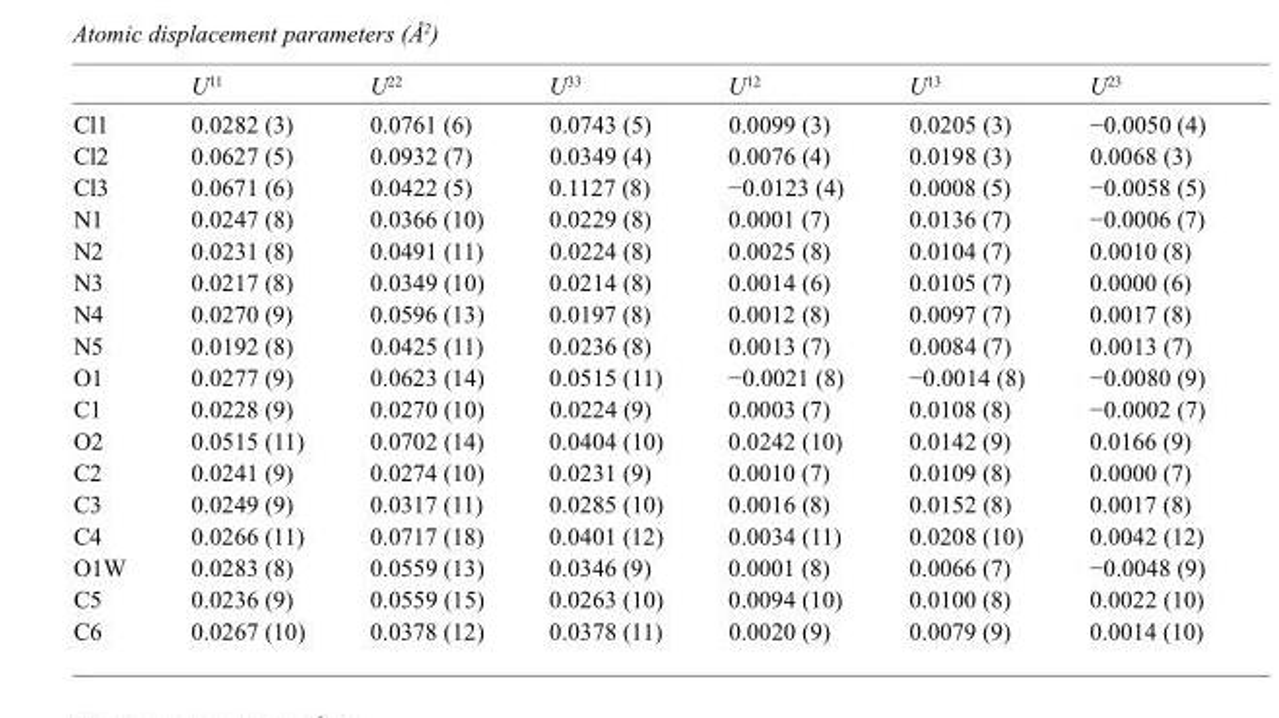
<table><thead><tr><td></td><td>U<sup>11</sup></td><td>U<sup>22</sup></td><td>U<sup>33</sup></td><td>U<sup>12</sup></td><td>U<sup>13</sup></td><td>U<sup>23</sup></td></tr></thead><tbody><tr><td>Cl1</td><td>0.0282 (3)</td><td>0.0761 (6)</td><td>0.0743 (5)</td><td>0.0099 (3)</td><td>0.0205 (3)</td><td>−0.0050 (4)</td></tr><tr><td>Cl2</td><td>0.0627 (5)</td><td>0.0932 (7)</td><td>0.0349 (4)</td><td>0.0076 (4)</td><td>0.0198 (3)</td><td>0.0068 (3)</td></tr><tr><td>Cl3</td><td>0.0671 (6)</td><td>0.0422 (5)</td><td>0.1127 (8)</td><td>−0.0123 (4)</td><td>0.0008 (5)</td><td>−0.0058 (5)</td></tr><tr><td>N1</td><td>0.0247 (8)</td><td>0.0366 (10)</td><td>0.0229 (8)</td><td>0.0001 (7)</td><td>0.0136 (7)</td><td>−0.0006 (7)</td></tr><tr><td>N2</td><td>0.0231 (8)</td><td>0.0491 (11)</td><td>0.0224 (8)</td><td>0.0025 (8)</td><td>0.0104 (7)</td><td>0.0010 (8)</td></tr><tr><td>N3</td><td>0.0217 (8)</td><td>0.0349 (10)</td><td>0.0214 (8)</td><td>0.0014 (6)</td><td>0.0105 (7)</td><td>0.0000 (6)</td></tr><tr><td>N4</td><td>0.0270 (9)</td><td>0.0596 (13)</td><td>0.0197 (8)</td><td>0.0012 (8)</td><td>0.0097 (7)</td><td>0.0017 (8)</td></tr><tr><td>N5</td><td>0.0192 (8)</td><td>0.0425 (11)</td><td>0.0236 (8)</td><td>0.0013 (7)</td><td>0.0084 (7)</td><td>0.0013 (7)</td></tr><tr><td>O1</td><td>0.0277 (9)</td><td>0.0623 (14)</td><td>0.0515 (11)</td><td>−0.0021 (8)</td><td>−0.0014 (8)</td><td>−0.0080 (9)</td></tr><tr><td>C1</td><td>0.0228 (9)</td><td>0.0270 (10)</td><td>0.0224 (9)</td><td>0.0003 (7)</td><td>0.0108 (8)</td><td>−0.0002 (7)</td></tr><tr><td>O2</td><td>0.0515 (11)</td><td>0.0702 (14)</td><td>0.0404 (10)</td><td>0.0242 (10)</td><td>0.0142 (9)</td><td>0.0166 (9)</td></tr><tr><td>C2</td><td>0.0241 (9)</td><td>0.0274 (10)</td><td>0.0231 (9)</td><td>0.0010 (7)</td><td>0.0109 (8)</td><td>0.0000 (7)</td></tr><tr><td>C3</td><td>0.0249 (9)</td><td>0.0317 (11)</td><td>0.0285 (10)</td><td>0.0016 (8)</td><td>0.0152 (8)</td><td>0.0017 (8)</td></tr><tr><td>C4</td><td>0.0266 (11)</td><td>0.0717 (18)</td><td>0.0401 (12)</td><td>0.0034 (11)</td><td>0.0208 (10)</td><td>0.0042 (12)</td></tr><tr><td>O1W</td><td>0.0283 (8)</td><td>0.0559 (13)</td><td>0.0346 (9)</td><td>0.0001 (8)</td><td>0.0066 (7)</td><td>−0.0048 (9)</td></tr><tr><td>C5</td><td>0.0236 (9)</td><td>0.0559 (15)</td><td>0.0263 (10)</td><td>0.0094 (10)</td><td>0.0100 (8)</td><td>0.0022 (10)</td></tr><tr><td>C6</td><td>0.0267 (10)</td><td>0.0378 (12)</td><td>0.0378 (11)</td><td>0.0020 (9)</td><td>0.0079 (9)</td><td>0.0014 (10)</td></tr></tbody></table>